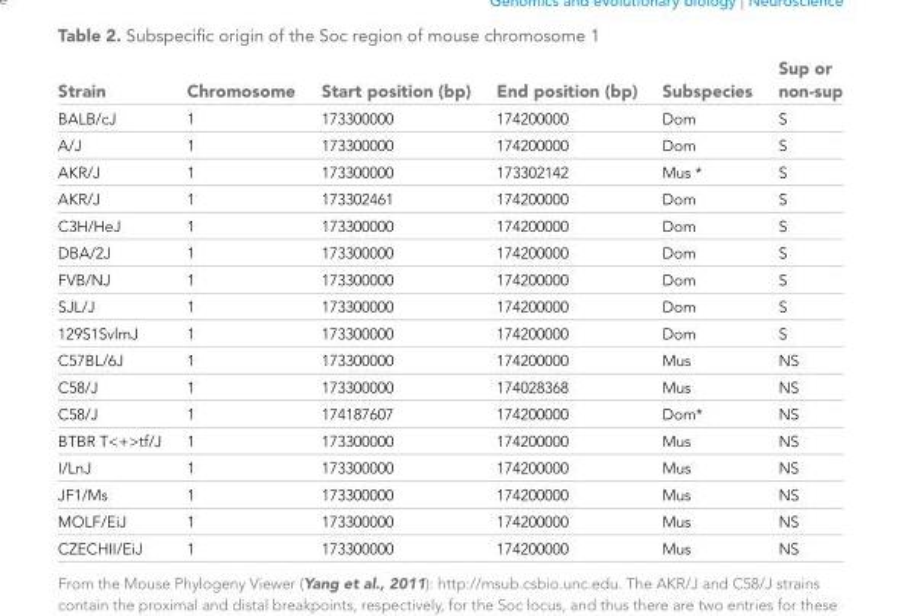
<table><thead><tr><td>Strain</td><td>Chromosome</td><td>Start position (bp)</td><td>End position (bp)</td><td>Subspecies</td><td>Sup or non-sup</td></tr></thead><tbody><tr><td>BALB/cJ</td><td>1</td><td>173300000</td><td>174200000</td><td>Dom</td><td>S</td></tr><tr><td>A/J</td><td>1</td><td>173300000</td><td>174200000</td><td>Dom</td><td>S</td></tr><tr><td>AKR/J</td><td>1</td><td>173300000</td><td>173302142</td><td>Mus *</td><td>S</td></tr><tr><td>AKR/J</td><td>1</td><td>173302461</td><td>174200000</td><td>Dom</td><td>S</td></tr><tr><td>C3H/HeJ</td><td>1</td><td>173300000</td><td>174200000</td><td>Dom</td><td>S</td></tr><tr><td>DBA/2J</td><td>1</td><td>173300000</td><td>174200000</td><td>Dom</td><td>S</td></tr><tr><td>FVB/NJ</td><td>1</td><td>173300000</td><td>174200000</td><td>Dom</td><td>S</td></tr><tr><td>SJL/J</td><td>1</td><td>173300000</td><td>174200000</td><td>Dom</td><td>S</td></tr><tr><td>129S1SvlmJ</td><td>1</td><td>173300000</td><td>174200000</td><td>Dom</td><td>S</td></tr><tr><td>C57BL/6J</td><td>1</td><td>173300000</td><td>174200000</td><td>Mus</td><td>NS</td></tr><tr><td>C58/J</td><td>1</td><td>173300000</td><td>174028368</td><td>Mus</td><td>NS</td></tr><tr><td>C58/J</td><td>1</td><td>174187607</td><td>174200000</td><td>Dom*</td><td>NS</td></tr><tr><td>BTBR T&lt;+&gt;tf/J</td><td>1</td><td>173300000</td><td>174200000</td><td>Mus</td><td>NS</td></tr><tr><td>I/LnJ</td><td>1</td><td>173300000</td><td>174200000</td><td>Mus</td><td>NS</td></tr><tr><td>JF1/Ms</td><td>1</td><td>173300000</td><td>174200000</td><td>Mus</td><td>NS</td></tr><tr><td>MOLF/EiJ</td><td>1</td><td>173300000</td><td>174200000</td><td>Mus</td><td>NS</td></tr><tr><td>CZECHII/EiJ</td><td>1</td><td>173300000</td><td>174200000</td><td>Mus</td><td>NS</td></tr></tbody></table>